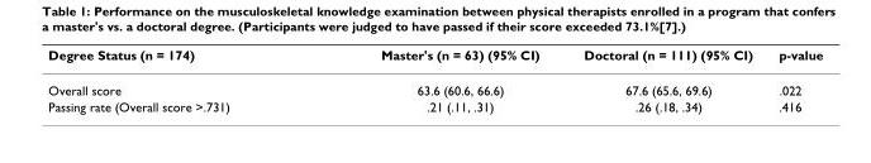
<table><thead><tr><td>Degree Status (n = 174)</td><td>Master&#x27;s (n = 63) (95% CI)</td><td>Doctoral (n = 111) (95% CI)</td><td>p-value</td></tr></thead><tbody><tr><td>Overall score</td><td>63.6 (60.6, 66.6)</td><td>67.6 (65.6, 69.6)</td><td>.022</td></tr><tr><td>Passing rate (Overall score &gt;.731)</td><td>.21 (.11, .31)</td><td>.26 (.18, .34)</td><td>.416</td></tr></tbody></table>